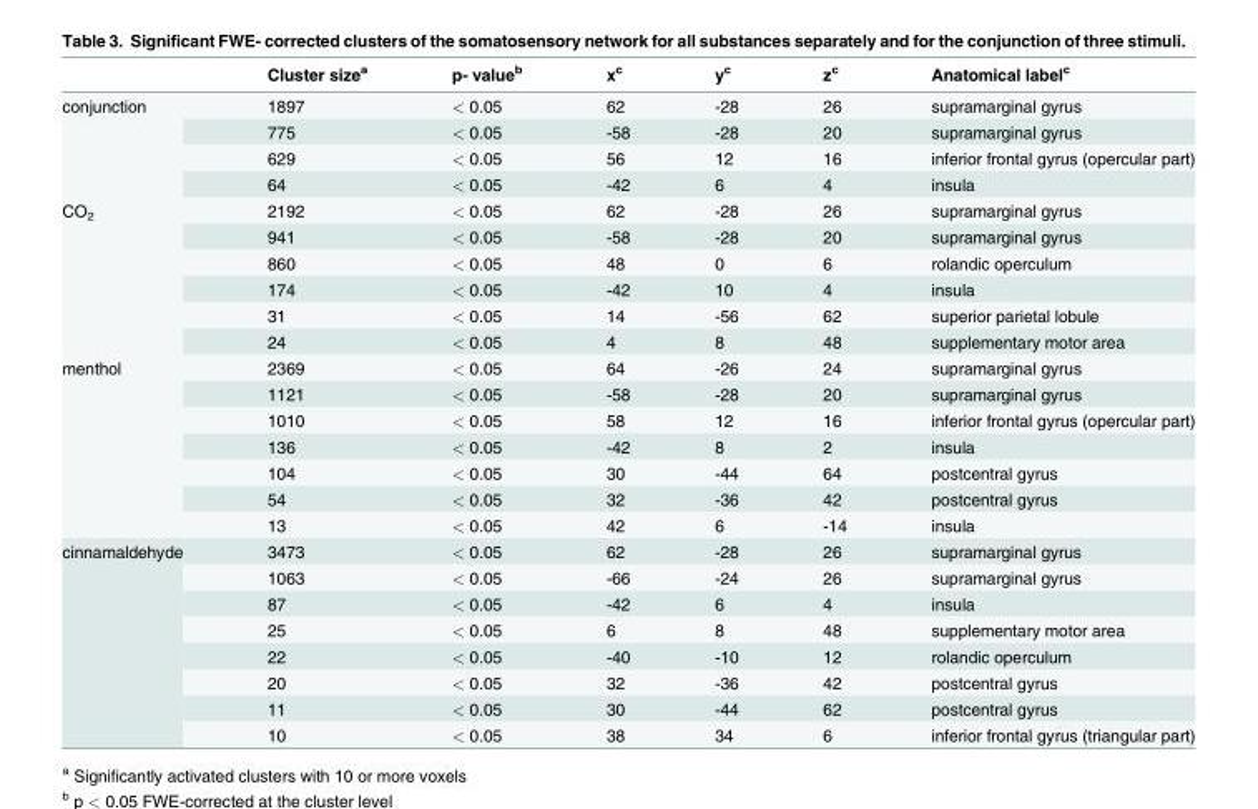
<table><thead><tr><td></td><td>Cluster size<sup>a</sup></td><td>p- value<sup>b</sup></td><td>x<sup>c</sup></td><td>y<sup>c</sup></td><td>z<sup>c</sup></td><td>Anatomical label<sup>c</sup></td></tr></thead><tbody><tr><td rowspan="4">conjunction</td><td>1897</td><td>&lt; 0.05</td><td>62</td><td>-28</td><td>26</td><td>supramarginal gyrus</td></tr><tr><td>775</td><td>&lt; 0.05</td><td>-58</td><td>-28</td><td>20</td><td>supramarginal gyrus</td></tr><tr><td>629</td><td>&lt; 0.05</td><td>56</td><td>12</td><td>16</td><td>inferior frontal gyrus (opercular part)</td></tr><tr><td>64</td><td>&lt; 0.05</td><td>-42</td><td>6</td><td>4</td><td>insula</td></tr><tr><td rowspan="6">CO<sub>2</sub></td><td>2192</td><td>&lt; 0.05</td><td>62</td><td>-28</td><td>26</td><td>supramarginal gyrus</td></tr><tr><td>941</td><td>&lt; 0.05</td><td>-58</td><td>-28</td><td>20</td><td>supramarginal gyrus</td></tr><tr><td>860</td><td>&lt; 0.05</td><td>48</td><td>0</td><td>6</td><td>rolandic operculum</td></tr><tr><td>174</td><td>&lt; 0.05</td><td>-42</td><td>10</td><td>4</td><td>insula</td></tr><tr><td>31</td><td>&lt; 0.05</td><td>14</td><td>-56</td><td>62</td><td>superior parietal lobule</td></tr><tr><td>24</td><td>&lt; 0.05</td><td>4</td><td>8</td><td>48</td><td>supplementary motor area</td></tr><tr><td rowspan="7">menthol</td><td>2369</td><td>&lt; 0.05</td><td>64</td><td>-26</td><td>24</td><td>supramarginal gyrus</td></tr><tr><td>1121</td><td>&lt; 0.05</td><td>-58</td><td>-28</td><td>20</td><td>supramarginal gyrus</td></tr><tr><td>1010</td><td>&lt; 0.05</td><td>58</td><td>12</td><td>16</td><td>inferior frontal gyrus (opercular part)</td></tr><tr><td>136</td><td>&lt; 0.05</td><td>-42</td><td>8</td><td>2</td><td>insula</td></tr><tr><td>104</td><td>&lt; 0.05</td><td>30</td><td>-44</td><td>64</td><td>postcentral gyrus</td></tr><tr><td>54</td><td>&lt; 0.05</td><td>32</td><td>-36</td><td>42</td><td>postcentral gyrus</td></tr><tr><td>13</td><td>&lt; 0.05</td><td>42</td><td>6</td><td>-14</td><td>insula</td></tr><tr><td rowspan="8">cinnamaldehyde</td><td>3473</td><td>&lt; 0.05</td><td>62</td><td>-28</td><td>26</td><td>supramarginal gyrus</td></tr><tr><td>1063</td><td>&lt; 0.05</td><td>-66</td><td>-24</td><td>26</td><td>supramarginal gyrus</td></tr><tr><td>87</td><td>&lt; 0.05</td><td>-42</td><td>6</td><td>4</td><td>insula</td></tr><tr><td>25</td><td>&lt; 0.05</td><td>6</td><td>8</td><td>48</td><td>supplementary motor area</td></tr><tr><td>22</td><td>&lt; 0.05</td><td>-40</td><td>-10</td><td>12</td><td>rolandic operculum</td></tr><tr><td>20</td><td>&lt; 0.05</td><td>32</td><td>-36</td><td>42</td><td>postcentral gyrus</td></tr><tr><td>11</td><td>&lt; 0.05</td><td>30</td><td>-44</td><td>62</td><td>postcentral gyrus</td></tr><tr><td>10</td><td>&lt; 0.05</td><td>38</td><td>34</td><td>6</td><td>inferior frontal gyrus (triangular part)</td></tr></tbody></table>